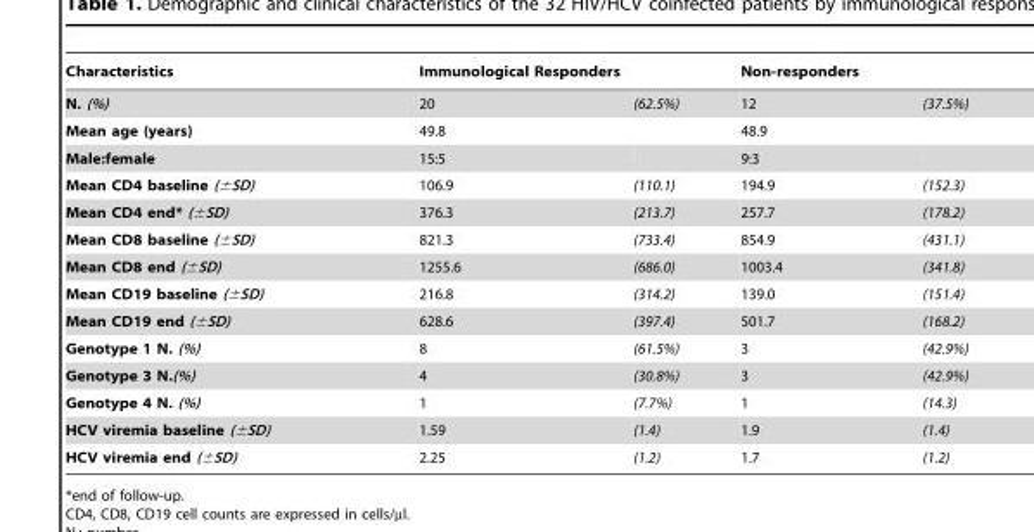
<table><thead><tr><td>Characteristics</td><td>Immunological Responders</td><td></td><td>Non-responders</td><td></td></tr></thead><tbody><tr><td>N. (%)</td><td>20</td><td>(62.5%)</td><td>12</td><td>(37.5%)</td></tr><tr><td>Mean age (years)</td><td>49.8</td><td></td><td>48.9</td><td></td></tr><tr><td>Male:female</td><td>15:5</td><td></td><td>9:3</td><td></td></tr><tr><td>Mean CD4 baseline (±SD)</td><td>106.9</td><td>(110.1)</td><td>194.9</td><td>(152.3)</td></tr><tr><td>Mean CD4 end* (±SD)</td><td>376.3</td><td>(213.7)</td><td>257.7</td><td>(178.2)</td></tr><tr><td>Mean CD8 baseline (±SD)</td><td>821.3</td><td>(733.4)</td><td>854.9</td><td>(431.1)</td></tr><tr><td>Mean CD8 end (±SD)</td><td>1255.6</td><td>(686.0)</td><td>1003.4</td><td>(341.8)</td></tr><tr><td>Mean CD19 baseline (±SD)</td><td>216.8</td><td>(314.2)</td><td>139.0</td><td>(151.4)</td></tr><tr><td>Mean CD19 end (±SD)</td><td>628.6</td><td>(397.4)</td><td>501.7</td><td>(168.2)</td></tr><tr><td>Genotype 1 N. (%)</td><td>8</td><td>(61.5%)</td><td>3</td><td>(42.9%)</td></tr><tr><td>Genotype 3 N.(%)</td><td>4</td><td>(30.8%)</td><td>3</td><td>(42.9%)</td></tr><tr><td>Genotype 4 N. (%)</td><td>1</td><td>(7.7%)</td><td>1</td><td>(14.3)</td></tr><tr><td>HCV viremia baseline (±SD)</td><td>1.59</td><td>(1.4)</td><td>1.9</td><td>(1.4)</td></tr><tr><td>HCV viremia end (±SD)</td><td>2.25</td><td>(1.2)</td><td>1.7</td><td>(1.2)</td></tr></tbody></table>